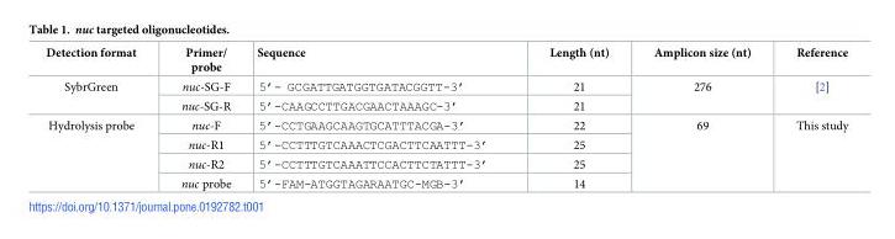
<table><thead><tr><td>Detection format</td><td>Primer/ probe</td><td>Sequence</td><td>Length (nt)</td><td>Amplicon size (nt)</td><td>Reference</td></tr></thead><tbody><tr><td rowspan="2">SybrGreen</td><td>nuc-SG-F</td><td>5’- GCGATTGATGGTGATACGGTT-3’</td><td>21</td><td rowspan="2">276</td><td rowspan="2">[2]</td></tr><tr><td>nuc-SG-R</td><td>5’-CAAGCCTTGACGAACTAAAGC-3’</td><td>21</td></tr><tr><td rowspan="4">Hydrolysis probe</td><td>nuc-F</td><td>5’-CCTGAAGCAAGTGCATTTACGA-3’</td><td>22</td><td rowspan="4">69</td><td rowspan="4">This study</td></tr><tr><td>nuc-R1</td><td>5’-CCTTTGTCAAACTCGACTTCAATTT-3’</td><td>25</td></tr><tr><td>nuc-R2</td><td>5’-CCTTTGTCAAATTCCACTTCTATTT-3’</td><td>25</td></tr><tr><td>nuc probe</td><td>5’-FAM-ATGGTAGARAATGC-MGB-3’</td><td>14</td></tr></tbody></table>